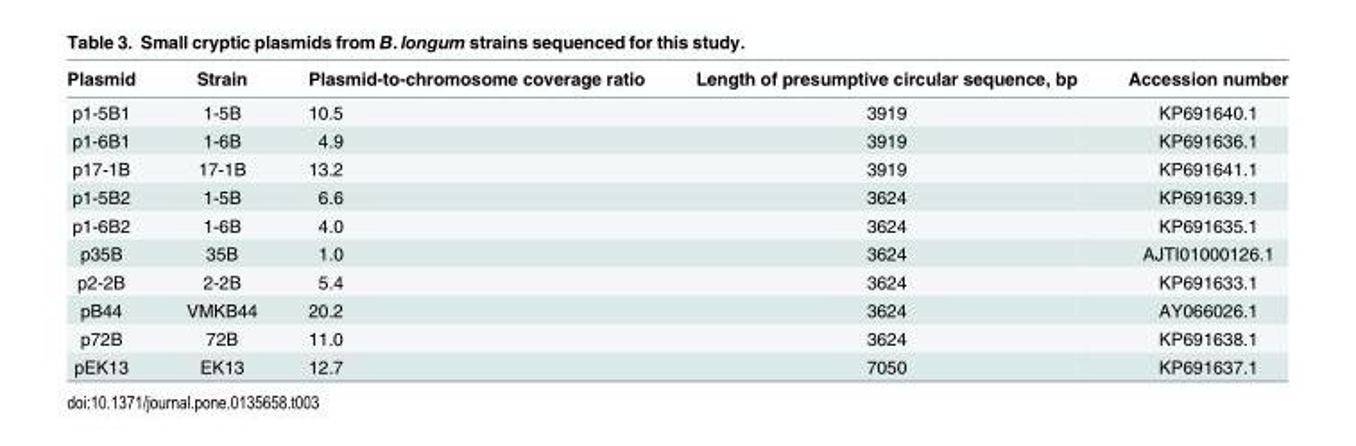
<table><thead><tr><td>Plasmid</td><td>Strain</td><td>Plasmid-to-chromosome coverage ratio</td><td>Length of presumptive circular sequence, bp</td><td>Accession number</td></tr></thead><tbody><tr><td>p1-5B1</td><td>1-5B</td><td>10.5</td><td>3919</td><td>KP691640.1</td></tr><tr><td>p1-6B1</td><td>1-6B</td><td>4.9</td><td>3919</td><td>KP691636.1</td></tr><tr><td>p17-1B</td><td>17-1B</td><td>13.2</td><td>3919</td><td>KP691641.1</td></tr><tr><td>p1-5B2</td><td>1-5B</td><td>6.6</td><td>3624</td><td>KP691639.1</td></tr><tr><td>p1-6B2</td><td>1-6B</td><td>4.0</td><td>3624</td><td>KP691635.1</td></tr><tr><td>p35B</td><td>35B</td><td>1.0</td><td>3624</td><td>AJTI01000126.1</td></tr><tr><td>p2-2B</td><td>2-2B</td><td>5.4</td><td>3624</td><td>KP691633.1</td></tr><tr><td>pB44</td><td>VMKB44</td><td>20.2</td><td>3624</td><td>AY066026.1</td></tr><tr><td>p72B</td><td>72B</td><td>11.0</td><td>3624</td><td>KP691638.1</td></tr><tr><td>pEK13</td><td>EK13</td><td>12.7</td><td>7050</td><td>KP691637.1</td></tr></tbody></table>